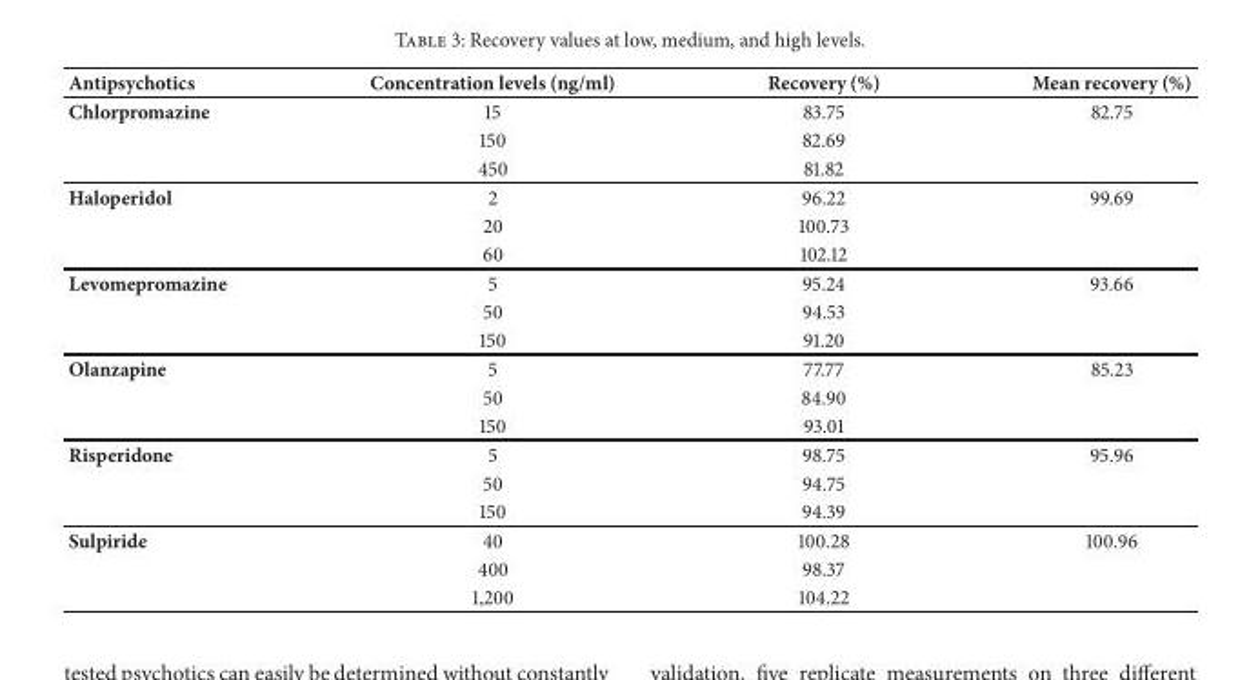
<table><thead><tr><td>Antipsychotics</td><td>Concentration levels (ng/ml)</td><td>Recovery (%)</td><td>Mean recovery (%)</td></tr></thead><tbody><tr><td rowspan="3">Chlorpromazine</td><td>15</td><td>83.75</td><td>82.75</td></tr><tr><td>150</td><td>82.69</td><td></td></tr><tr><td>450</td><td>81.82</td><td></td></tr><tr><td rowspan="3">Haloperidol</td><td>2</td><td>96.22</td><td>99.69</td></tr><tr><td>20</td><td>100.73</td><td></td></tr><tr><td>60</td><td>102.12</td><td></td></tr><tr><td rowspan="3">Levomepromazine</td><td>5</td><td>95.24</td><td>93.66</td></tr><tr><td>50</td><td>94.53</td><td></td></tr><tr><td>150</td><td>91.20</td><td></td></tr><tr><td rowspan="3">Olanzapine</td><td>5</td><td>77.77</td><td>85.23</td></tr><tr><td>50</td><td>84.90</td><td></td></tr><tr><td>150</td><td>93.01</td><td></td></tr><tr><td rowspan="3">Risperidone</td><td>5</td><td>98.75</td><td>95.96</td></tr><tr><td>50</td><td>94.75</td><td></td></tr><tr><td>150</td><td>94.39</td><td></td></tr><tr><td rowspan="3">Sulpiride</td><td>40</td><td>100.28</td><td>100.96</td></tr><tr><td>400</td><td>98.37</td><td></td></tr><tr><td>1,200</td><td>104.22</td><td></td></tr></tbody></table>